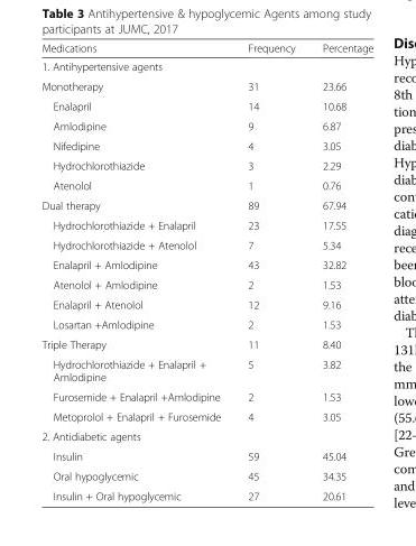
<table><thead><tr><td>Medications</td><td>Frequency</td><td>Percentage</td></tr></thead><tbody><tr><td colspan="3">1. Antihypertensive agents</td></tr><tr><td>Monotherapy</td><td>31</td><td>23.66</td></tr><tr><td>Enalapril</td><td>14</td><td>10.68</td></tr><tr><td>Amlodipine</td><td>9</td><td>6.87</td></tr><tr><td>Nifedipine</td><td>4</td><td>3.05</td></tr><tr><td>Hydrochlorothiazide</td><td>3</td><td>2.29</td></tr><tr><td>Atenolol</td><td>1</td><td>0.76</td></tr><tr><td>Dual therapy</td><td>89</td><td>67.94</td></tr><tr><td>Hydrochlorothiazide + Enalapril</td><td>23</td><td>17.55</td></tr><tr><td>Hydrochlorothiazide + Atenolol</td><td>7</td><td>5.34</td></tr><tr><td>Enalapril + Amlodipine</td><td>43</td><td>32.82</td></tr><tr><td>Atenolol + Amlodipine</td><td>2</td><td>1.53</td></tr><tr><td>Enalapril + Atenolol</td><td>12</td><td>9.16</td></tr><tr><td>Losartan +Amlodipine</td><td>2</td><td>1.53</td></tr><tr><td>Triple Therapy</td><td>11</td><td>8.40</td></tr><tr><td>Hydrochlorothiazide + Enalapril + Amlodipine</td><td>5</td><td>3.82</td></tr><tr><td>Furosemide + Enalapril +Amlodipine</td><td>2</td><td>1.53</td></tr><tr><td>Metoprolol + Enalapril + Furosemide</td><td>4</td><td>3.05</td></tr><tr><td colspan="3">2. Antidiabetic agents</td></tr><tr><td>Insulin</td><td>59</td><td>45.04</td></tr><tr><td>Oral hypoglycemic</td><td>45</td><td>34.35</td></tr><tr><td>Insulin + Oral hypoglycemic</td><td>27</td><td>20.61</td></tr></tbody></table>